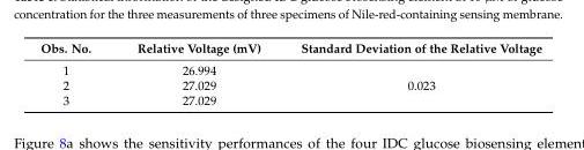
<table><thead><tr><td>Obs. No.</td><td>Relative Voltage (mV)</td><td>Standard Deviation of the Relative Voltage</td></tr></thead><tbody><tr><td>1</td><td>26.994</td><td></td></tr><tr><td>2</td><td>27.029</td><td>0.023</td></tr><tr><td>3</td><td>27.029</td><td></td></tr></tbody></table>